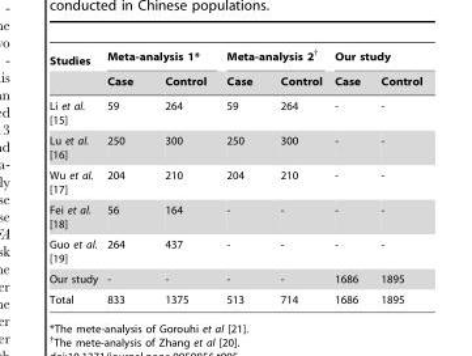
<table><thead><tr><td rowspan="2">Studies</td><td colspan="2">Meta-analysis 1*</td><td colspan="2">Meta-analysis 2†</td><td colspan="2">Our study</td></tr><tr><td>Case</td><td>Control</td><td>Case</td><td>Control</td><td>Case</td><td>Control</td></tr></thead><tbody><tr><td>Li et al. [15]</td><td>59</td><td>264</td><td>59</td><td>264</td><td>-</td><td>-</td></tr><tr><td>Lu et al. [16]</td><td>250</td><td>300</td><td>250</td><td>300</td><td>-</td><td>-</td></tr><tr><td>Wu et al. [17]</td><td>204</td><td>210</td><td>204</td><td>210</td><td>-</td><td>-</td></tr><tr><td>Fei et al. [18]</td><td>56</td><td>164</td><td>-</td><td>-</td><td>-</td><td>-</td></tr><tr><td>Guo et al. [19]</td><td>264</td><td>437</td><td>-</td><td>-</td><td>-</td><td>-</td></tr><tr><td>Our study</td><td>-</td><td>-</td><td>-</td><td>-</td><td>1686</td><td>1895</td></tr><tr><td>Total</td><td>833</td><td>1375</td><td>513</td><td>714</td><td>1686</td><td>1895</td></tr></tbody></table>